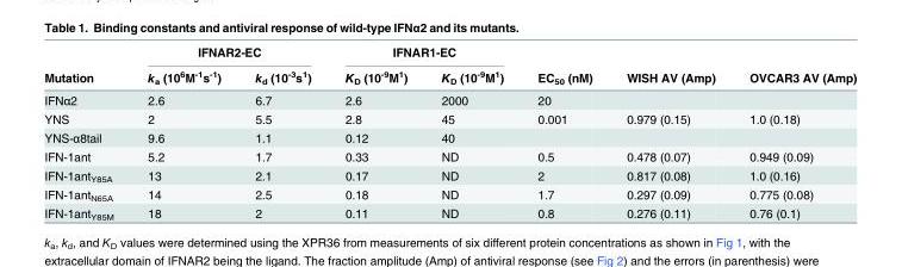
<table><thead><tr><td rowspan="2">Mutation</td><td colspan="2">IFNAR2-EC</td><td colspan="2">IFNAR1-EC</td><td rowspan="2">EC<sub>50</sub> (nM)</td><td rowspan="2">WISH AV (Amp)</td><td rowspan="2">OVCAR3 AV (Amp)</td></tr><tr><td>k<sub>a</sub> (10<sup>6</sup>M<sup>-1</sup>s<sup>-1</sup>)</td><td>k<sub>d</sub> (10<sup>-3</sup>s<sup>1</sup>)</td><td>K<sub>D</sub> (10<sup>-9</sup>M<sup>1</sup>)</td><td>K<sub>D</sub> (10<sup>-9</sup>M<sup>1</sup>)</td></tr></thead><tbody><tr><td>IFNα2</td><td>2.6</td><td>6.7</td><td>2.6</td><td>2000</td><td>20</td><td></td><td></td></tr><tr><td>YNS</td><td>2</td><td>5.5</td><td>2.8</td><td>45</td><td>0.001</td><td>0.979 (0.15)</td><td>1.0 (0.18)</td></tr><tr><td>YNS-α8tail</td><td>9.6</td><td>1.1</td><td>0.12</td><td>40</td><td></td><td></td><td></td></tr><tr><td>IFN-1ant</td><td>5.2</td><td>1.7</td><td>0.33</td><td>ND</td><td>0.5</td><td>0.478 (0.07)</td><td>0.949 (0.09)</td></tr><tr><td>IFN-1ant<sub>Y85A</sub></td><td>13</td><td>2.1</td><td>0.17</td><td>ND</td><td>2</td><td>0.817 (0.08)</td><td>1.0 (0.16)</td></tr><tr><td>IFN-1ant<sub>N65A</sub></td><td>14</td><td>2.5</td><td>0.18</td><td>ND</td><td>1.7</td><td>0.297 (0.09)</td><td>0.775 (0.08)</td></tr><tr><td>IFN-1ant<sub>Y85M</sub></td><td>18</td><td>2</td><td>0.11</td><td>ND</td><td>0.8</td><td>0.276 (0.11)</td><td>0.76 (0.1)</td></tr></tbody></table>